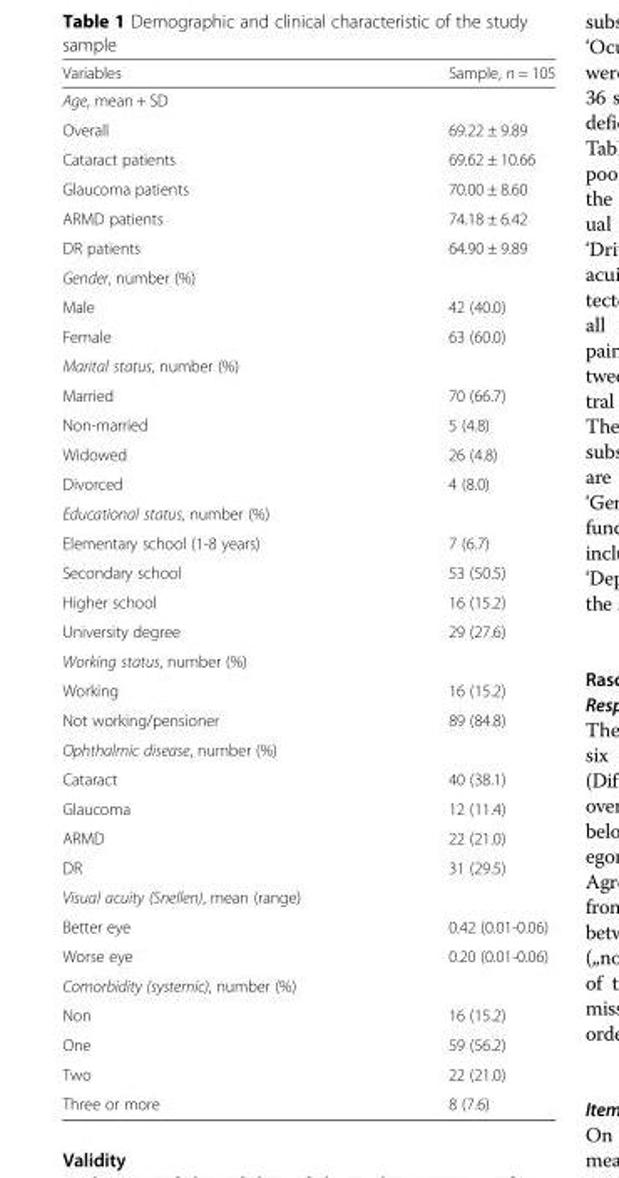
<table><thead><tr><td>Variables</td><td>Sample, n = 105</td></tr></thead><tbody><tr><td colspan="2">Age, mean + SD</td></tr><tr><td>Overall</td><td>69.22 ± 9.89</td></tr><tr><td>Cataract patients</td><td>69.62 ± 10.66</td></tr><tr><td>Glaucoma patients</td><td>70.00 ± 8.60</td></tr><tr><td>ARMD patients</td><td>74.18 ± 6.42</td></tr><tr><td>DR patients</td><td>64.90 ± 9.89</td></tr><tr><td colspan="2">Gender, number (%)</td></tr><tr><td>Male</td><td>42 (40.0)</td></tr><tr><td>Female</td><td>63 (60.0)</td></tr><tr><td colspan="2">Marital status, number (%)</td></tr><tr><td>Married</td><td>70 (66.7)</td></tr><tr><td>Non-married</td><td>5 (4.8)</td></tr><tr><td>Widowed</td><td>26 (4.8)</td></tr><tr><td>Divorced</td><td>4 (8.0)</td></tr><tr><td colspan="2">Educational status, number (%)</td></tr><tr><td>Elementary school (1-8 years)</td><td>7 (6.7)</td></tr><tr><td>Secondary school</td><td>53 (50.5)</td></tr><tr><td>Higher school</td><td>16 (15.2)</td></tr><tr><td>University degree</td><td>29 (27.6)</td></tr><tr><td colspan="2">Working status, number (%)</td></tr><tr><td>Working</td><td>16 (15.2)</td></tr><tr><td>Not working/pensioner</td><td>89 (84.8)</td></tr><tr><td colspan="2">Ophthalmic disease, number (%)</td></tr><tr><td>Cataract</td><td>40 (38.1)</td></tr><tr><td>Glaucoma</td><td>12 (11.4)</td></tr><tr><td>ARMD</td><td>22 (21.0)</td></tr><tr><td>DR</td><td>31 (29.5)</td></tr><tr><td colspan="2">Visual acuity (Snellen), mean (range)</td></tr><tr><td>Better eye</td><td>0.42 (0.01-0.06)</td></tr><tr><td>Worse eye</td><td>0.20 (0.01-0.06)</td></tr><tr><td colspan="2">Comorbidity (systemic), number (%)</td></tr><tr><td>Non</td><td>16 (15.2)</td></tr><tr><td>One</td><td>59 (56.2)</td></tr><tr><td>Two</td><td>22 (21.0)</td></tr><tr><td>Three or more</td><td>8 (7.6)</td></tr></tbody></table>